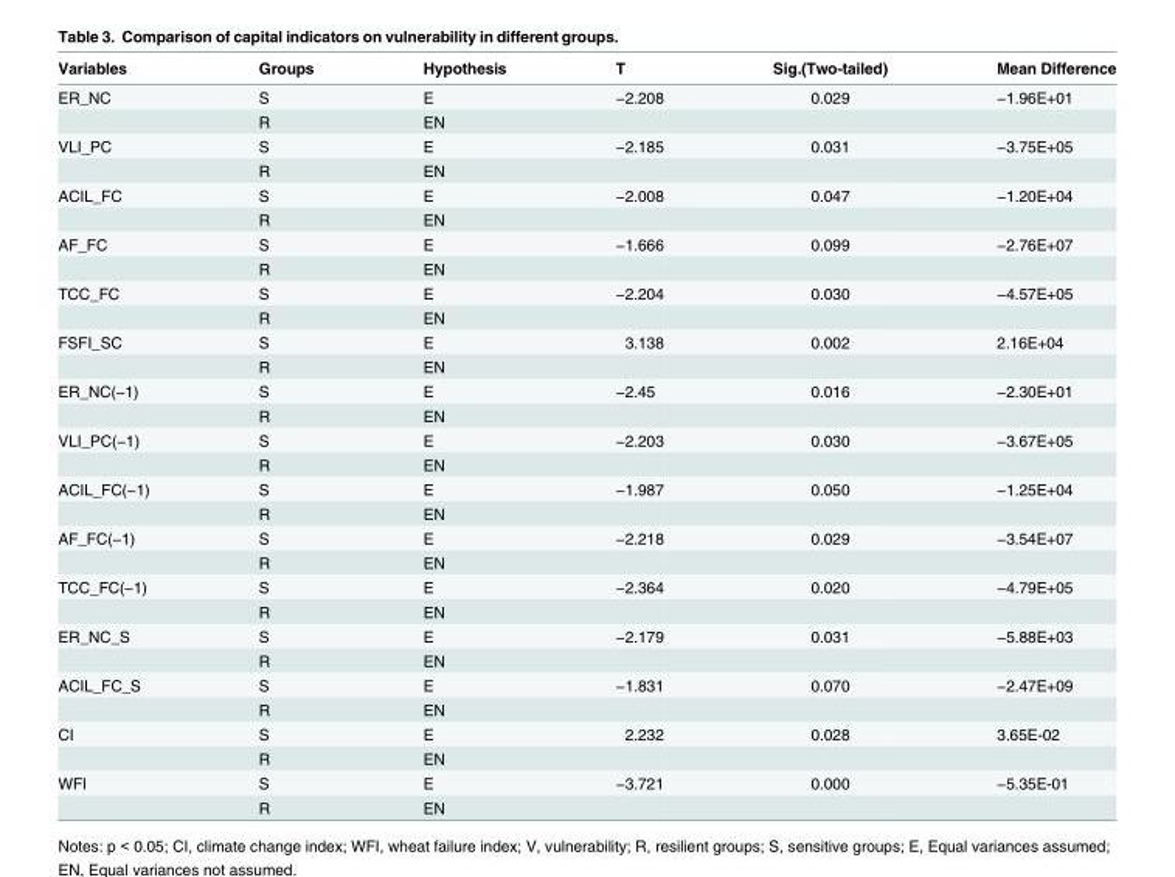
<table><thead><tr><td>Variables</td><td>Groups</td><td>Hypothesis</td><td>T</td><td>Sig.(Two-tailed)</td><td>Mean Difference</td></tr></thead><tbody><tr><td rowspan="2">ER_NC</td><td>S</td><td>E</td><td>−2.208</td><td>0.029</td><td>−1.96E+01</td></tr><tr><td>R</td><td>EN</td><td></td><td></td><td></td></tr><tr><td rowspan="2">VLI_PC</td><td>S</td><td>E</td><td>−2.185</td><td>0.031</td><td>−3.75E+05</td></tr><tr><td>R</td><td>EN</td><td></td><td></td><td></td></tr><tr><td rowspan="2">ACIL_FC</td><td>S</td><td>E</td><td>−2.008</td><td>0.047</td><td>−1.20E+04</td></tr><tr><td>R</td><td>EN</td><td></td><td></td><td></td></tr><tr><td rowspan="2">AF_FC</td><td>S</td><td>E</td><td>−1.666</td><td>0.099</td><td>−2.76E+07</td></tr><tr><td>R</td><td>EN</td><td></td><td></td><td></td></tr><tr><td rowspan="2">TCC_FC</td><td>S</td><td>E</td><td>−2.204</td><td>0.030</td><td>−4.57E+05</td></tr><tr><td>R</td><td>EN</td><td></td><td></td><td></td></tr><tr><td rowspan="2">FSFI_SC</td><td>S</td><td>E</td><td>3.138</td><td>0.002</td><td>2.16E+04</td></tr><tr><td>R</td><td>EN</td><td></td><td></td><td></td></tr><tr><td rowspan="2">ER_NC(−1)</td><td>S</td><td>E</td><td>−2.45</td><td>0.016</td><td>−2.30E+01</td></tr><tr><td>R</td><td>EN</td><td></td><td></td><td></td></tr><tr><td rowspan="2">VLI_PC(−1)</td><td>S</td><td>E</td><td>−2.203</td><td>0.030</td><td>−3.67E+05</td></tr><tr><td>R</td><td>EN</td><td></td><td></td><td></td></tr><tr><td rowspan="2">ACIL_FC(−1)</td><td>S</td><td>E</td><td>−1.987</td><td>0.050</td><td>−1.25E+04</td></tr><tr><td>R</td><td>EN</td><td></td><td></td><td></td></tr><tr><td rowspan="2">AF_FC(−1)</td><td>S</td><td>E</td><td>−2.218</td><td>0.029</td><td>−3.54E+07</td></tr><tr><td>R</td><td>EN</td><td></td><td></td><td></td></tr><tr><td rowspan="2">TCC_FC(−1)</td><td>S</td><td>E</td><td>−2.364</td><td>0.020</td><td>−4.79E+05</td></tr><tr><td>R</td><td>EN</td><td></td><td></td><td></td></tr><tr><td rowspan="2">ER_NC_S</td><td>S</td><td>E</td><td>−2.179</td><td>0.031</td><td>−5.88E+03</td></tr><tr><td>R</td><td>EN</td><td></td><td></td><td></td></tr><tr><td rowspan="2">ACIL_FC_S</td><td>S</td><td>E</td><td>−1.831</td><td>0.070</td><td>−2.47E+09</td></tr><tr><td>R</td><td>EN</td><td></td><td></td><td></td></tr><tr><td rowspan="2">CI</td><td>S</td><td>E</td><td>2.232</td><td>0.028</td><td>3.65E-02</td></tr><tr><td>R</td><td>EN</td><td></td><td></td><td></td></tr><tr><td rowspan="2">WFI</td><td>S</td><td>E</td><td>−3.721</td><td>0.000</td><td>−5.35E-01</td></tr><tr><td>R</td><td>EN</td><td></td><td></td><td></td></tr></tbody></table>